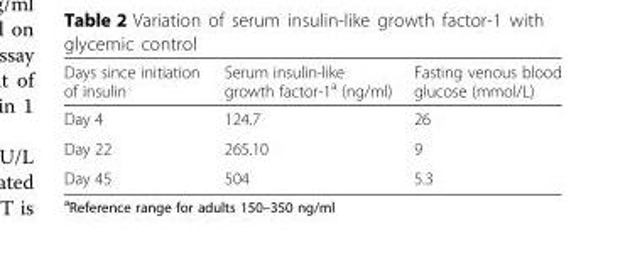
<table><thead><tr><td>Days since initiation of insulin</td><td>Serum insulin-like growth factor-1<sup>a</sup> (ng/ml)</td><td>Fasting venous blood glucose (mmol/L)</td></tr></thead><tbody><tr><td>Day 4</td><td>124.7</td><td>26</td></tr><tr><td>Day 22</td><td>265.10</td><td>9</td></tr><tr><td>Day 45</td><td>504</td><td>5.3</td></tr></tbody></table>